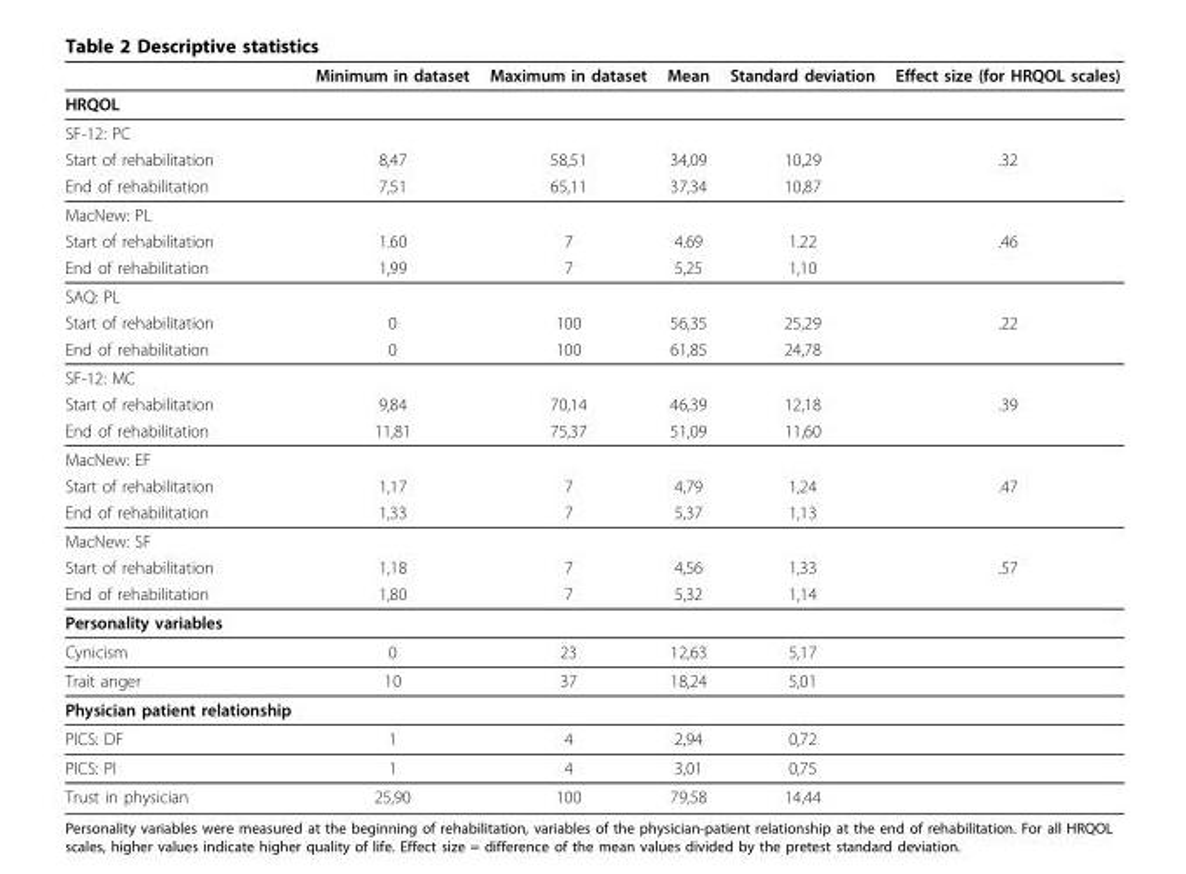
<table><thead><tr><td></td><td>Minimum in dataset</td><td>Maximum in dataset</td><td>Mean</td><td>Standard deviation</td><td>Effect size (for HRQOL scales)</td></tr></thead><tbody><tr><td colspan="6">HRQOL</td></tr><tr><td colspan="6">SF-12: PC</td></tr><tr><td>Start of rehabilitation</td><td>8,47</td><td>58,51</td><td>34,09</td><td>10,29</td><td>.32</td></tr><tr><td>End of rehabilitation</td><td>7,51</td><td>65,11</td><td>37,34</td><td>10,87</td><td></td></tr><tr><td colspan="6">MacNew: PL</td></tr><tr><td>Start of rehabilitation</td><td>1.60</td><td>7</td><td>4.69</td><td>1.22</td><td>.46</td></tr><tr><td>End of rehabilitation</td><td>1,99</td><td>7</td><td>5,25</td><td>1,10</td><td></td></tr><tr><td colspan="6">SAQ: PL</td></tr><tr><td>Start of rehabilitation</td><td>0</td><td>100</td><td>56,35</td><td>25,29</td><td>.22</td></tr><tr><td>End of rehabilitation</td><td>0</td><td>100</td><td>61,85</td><td>24,78</td><td></td></tr><tr><td colspan="6">SF-12: MC</td></tr><tr><td>Start of rehabilitation</td><td>9,84</td><td>70,14</td><td>46,39</td><td>12,18</td><td>.39</td></tr><tr><td>End of rehabilitation</td><td>11,81</td><td>75,37</td><td>51,09</td><td>11,60</td><td></td></tr><tr><td colspan="6">MacNew: EF</td></tr><tr><td>Start of rehabilitation</td><td>1,17</td><td>7</td><td>4,79</td><td>1,24</td><td>.47</td></tr><tr><td>End of rehabilitation</td><td>1,33</td><td>7</td><td>5,37</td><td>1,13</td><td></td></tr><tr><td colspan="6">MacNew: SF</td></tr><tr><td>Start of rehabilitation</td><td>1,18</td><td>7</td><td>4,56</td><td>1,33</td><td>.57</td></tr><tr><td>End of rehabilitation</td><td>1,80</td><td>7</td><td>5,32</td><td>1,14</td><td></td></tr><tr><td colspan="6">Personality variables</td></tr><tr><td>Cynicism</td><td>0</td><td>23</td><td>12,63</td><td>5,17</td><td></td></tr><tr><td>Trait anger</td><td>10</td><td>37</td><td>18,24</td><td>5,01</td><td></td></tr><tr><td colspan="6">Physician patient relationship</td></tr><tr><td>PICS: DF</td><td>1</td><td>4</td><td>2,94</td><td>0,72</td><td></td></tr><tr><td>PICS: PI</td><td>1</td><td>4</td><td>3,01</td><td>0,75</td><td></td></tr><tr><td>Trust in physician</td><td>25,90</td><td>100</td><td>79,58</td><td>14,44</td><td></td></tr></tbody></table>